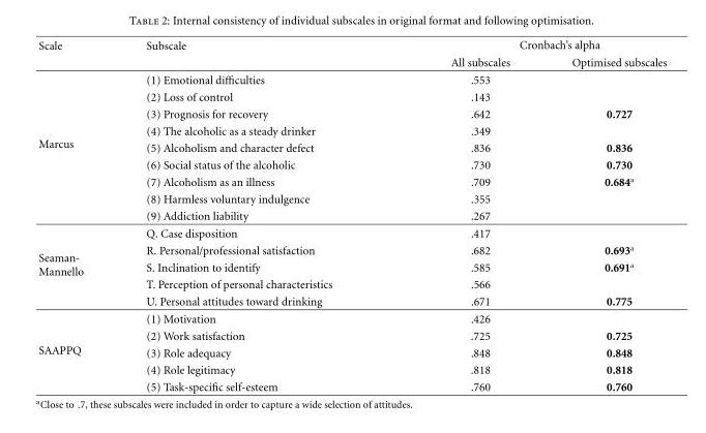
<table><thead><tr><td rowspan="2">Scale</td><td rowspan="2">Subscale</td><td colspan="2">Cronbach’s alpha</td></tr><tr><td>All subscales</td><td>Optimised subscales</td></tr></thead><tbody><tr><td rowspan="9">Marcus</td><td>(1) Emotional difficulties</td><td>.553</td><td></td></tr><tr><td>(2) Loss of control</td><td>.143</td><td></td></tr><tr><td>(3) Prognosis for recovery</td><td>.642</td><td>0.727</td></tr><tr><td>(4) The alcoholic as a steady drinker</td><td>.349</td><td></td></tr><tr><td>(5) Alcoholism and character defect</td><td>.836</td><td>0.836</td></tr><tr><td>(6) Social status of the alcoholic</td><td>.730</td><td>0.730</td></tr><tr><td>(7) Alcoholism as an illness</td><td>.709</td><td>0.684<sup>a</sup></td></tr><tr><td>(8) Harmless voluntary indulgence</td><td>.355</td><td></td></tr><tr><td>(9) Addiction liability</td><td>.267</td><td></td></tr><tr><td rowspan="5">Seaman- Mannello</td><td>Q. Case disposition</td><td>.417</td><td></td></tr><tr><td>R. Personal/professional satisfaction</td><td>.682</td><td>0.693<sup>a</sup></td></tr><tr><td>S. Inclination to identify</td><td>.585</td><td>0.691<sup>a</sup></td></tr><tr><td>T. Perception of personal characteristics</td><td>.566</td><td></td></tr><tr><td>U. Personal attitudes toward drinking</td><td>.671</td><td>0.775</td></tr><tr><td rowspan="5">SAAPPQ</td><td>(1) Motivation</td><td>.426</td><td></td></tr><tr><td>(2) Work satisfaction</td><td>.725</td><td>0.725</td></tr><tr><td>(3) Role adequacy</td><td>.848</td><td>0.848</td></tr><tr><td>(4) Role legitimacy</td><td>.818</td><td>0.818</td></tr><tr><td>(5) Task-specific self-esteem</td><td>.760</td><td>0.760</td></tr></tbody></table>